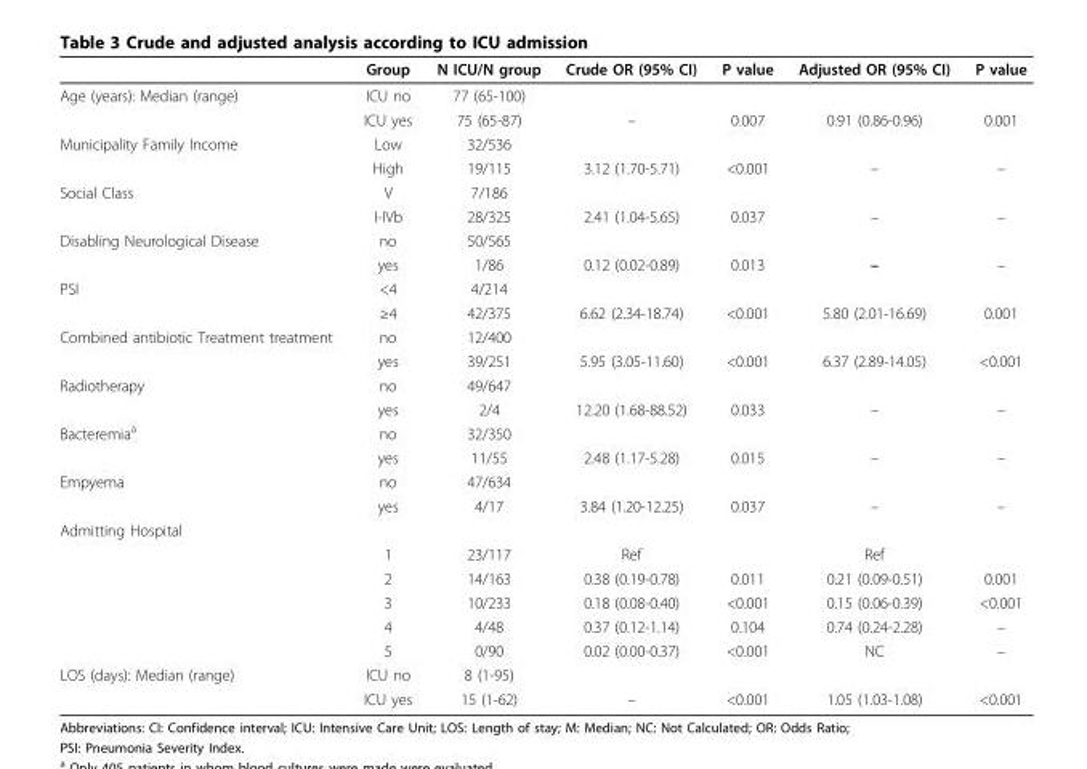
<table><thead><tr><td></td><td>Group</td><td>N ICU/N group</td><td>Crude OR (95% CI)</td><td>P value</td><td>Adjusted OR (95% CI)</td><td>P value</td></tr></thead><tbody><tr><td rowspan="2">Age (years): Median (range)</td><td>ICU no</td><td>77 (65-100)</td><td></td><td></td><td></td><td></td></tr><tr><td>ICU yes</td><td>75 (65-87)</td><td>–</td><td>0.007</td><td>0.91 (0.86-0.96)</td><td>0.001</td></tr><tr><td rowspan="2">Municipality Family Income</td><td>Low</td><td>32/536</td><td></td><td></td><td></td><td></td></tr><tr><td>High</td><td>19/115</td><td>3.12 (1.70-5.71)</td><td>&lt;0.001</td><td>–</td><td>–</td></tr><tr><td rowspan="2">Social Class</td><td>V</td><td>7/186</td><td></td><td></td><td></td><td></td></tr><tr><td>I-IVb</td><td>28/325</td><td>2.41 (1.04-5.65)</td><td>0.037</td><td>–</td><td>–</td></tr><tr><td rowspan="2">Disabling Neurological Disease</td><td>no</td><td>50/565</td><td></td><td></td><td></td><td></td></tr><tr><td>yes</td><td>1/86</td><td>0.12 (0.02-0.89)</td><td>0.013</td><td>–</td><td>–</td></tr><tr><td rowspan="2">PSI</td><td>&lt;4</td><td>4/214</td><td></td><td></td><td></td><td></td></tr><tr><td>≥4</td><td>42/375</td><td>6.62 (2.34-18.74)</td><td>&lt;0.001</td><td>5.80 (2.01-16.69)</td><td>0.001</td></tr><tr><td rowspan="2">Combined antibiotic Treatment treatment</td><td>no</td><td>12/400</td><td></td><td></td><td></td><td></td></tr><tr><td>yes</td><td>39/251</td><td>5.95 (3.05-11.60)</td><td>&lt;0.001</td><td>6.37 (2.89-14.05)</td><td>&lt;0.001</td></tr><tr><td rowspan="2">Radiotherapy</td><td>no</td><td>49/647</td><td></td><td></td><td></td><td></td></tr><tr><td>yes</td><td>2/4</td><td>12.20 (1.68-88.52)</td><td>0.033</td><td>–</td><td>–</td></tr><tr><td rowspan="2">Bacteremia<sup>a</sup></td><td>no</td><td>32/350</td><td></td><td></td><td></td><td></td></tr><tr><td>yes</td><td>11/55</td><td>2.48 (1.17-5.28)</td><td>0.015</td><td>–</td><td>–</td></tr><tr><td rowspan="2">Empyema</td><td>no</td><td>47/634</td><td></td><td></td><td></td><td></td></tr><tr><td>yes</td><td>4/17</td><td>3.84 (1.20-12.25)</td><td>0.037</td><td>–</td><td>–</td></tr><tr><td colspan="7">Admitting Hospital</td></tr><tr><td></td><td>1</td><td>23/117</td><td>Ref</td><td></td><td>Ref</td><td></td></tr><tr><td></td><td>2</td><td>14/163</td><td>0.38 (0.19-0.78)</td><td>0.011</td><td>0.21 (0.09-0.51)</td><td>0.001</td></tr><tr><td></td><td>3</td><td>10/233</td><td>0.18 (0.08-0.40)</td><td>&lt;0.001</td><td>0.15 (0.06-0.39)</td><td>&lt;0.001</td></tr><tr><td></td><td>4</td><td>4/48</td><td>0.37 (0.12-1.14)</td><td>0.104</td><td>0.74 (0.24-2.28)</td><td>–</td></tr><tr><td></td><td>5</td><td>0/90</td><td>0.02 (0.00-0.37)</td><td>&lt;0.001</td><td>NC</td><td>–</td></tr><tr><td rowspan="2">LOS (days): Median (range)</td><td>ICU no</td><td>8 (1-95)</td><td></td><td></td><td></td><td></td></tr><tr><td>ICU yes</td><td>15 (1-62)</td><td>–</td><td>&lt;0.001</td><td>1.05 (1.03-1.08)</td><td>&lt;0.001</td></tr></tbody></table>